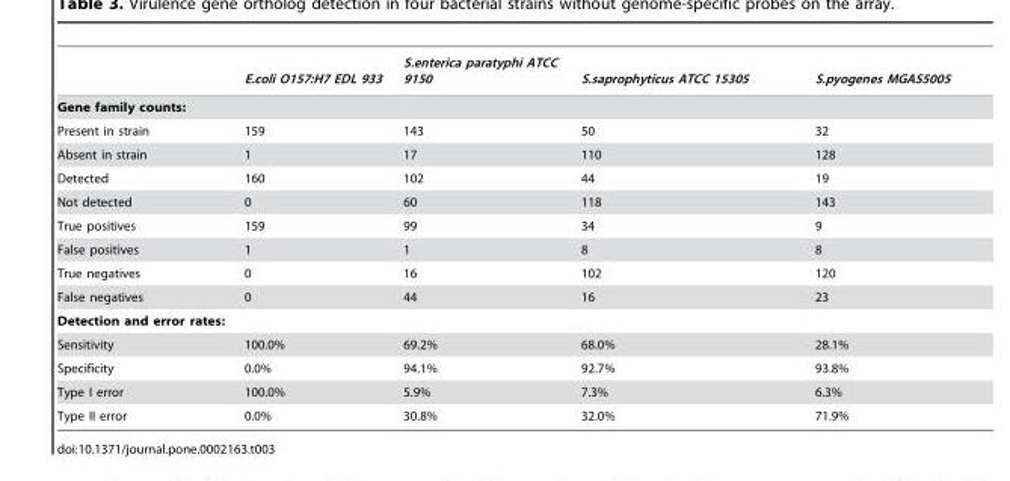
<table><thead><tr><td></td><td>E.coli O157:H7 EDL 933</td><td>S.enterica paratyphi ATCC 9150</td><td>S.saprophyticus ATCC 15305</td><td>S.pyogenes MGAS5005</td></tr></thead><tbody><tr><td colspan="5">Gene family counts:</td></tr><tr><td>Present in strain</td><td>159</td><td>143</td><td>50</td><td>32</td></tr><tr><td>Absent in strain</td><td>1</td><td>17</td><td>110</td><td>128</td></tr><tr><td>Detected</td><td>160</td><td>102</td><td>44</td><td>19</td></tr><tr><td>Not detected</td><td>0</td><td>60</td><td>118</td><td>143</td></tr><tr><td>True positives</td><td>159</td><td>99</td><td>34</td><td>9</td></tr><tr><td>False positives</td><td>1</td><td>1</td><td>8</td><td>8</td></tr><tr><td>True negatives</td><td>0</td><td>16</td><td>102</td><td>120</td></tr><tr><td>False negatives</td><td>0</td><td>44</td><td>16</td><td>23</td></tr><tr><td colspan="5">Detection and error rates:</td></tr><tr><td>Sensitivity</td><td>100.0%</td><td>69.2%</td><td>68.0%</td><td>28.1%</td></tr><tr><td>Specificity</td><td>0.0%</td><td>94.1%</td><td>92.7%</td><td>93.8%</td></tr><tr><td>Type I error</td><td>100.0%</td><td>5.9%</td><td>7.3%</td><td>6.3%</td></tr><tr><td>Type II error</td><td>0.0%</td><td>30.8%</td><td>32.0%</td><td>71.9%</td></tr></tbody></table>